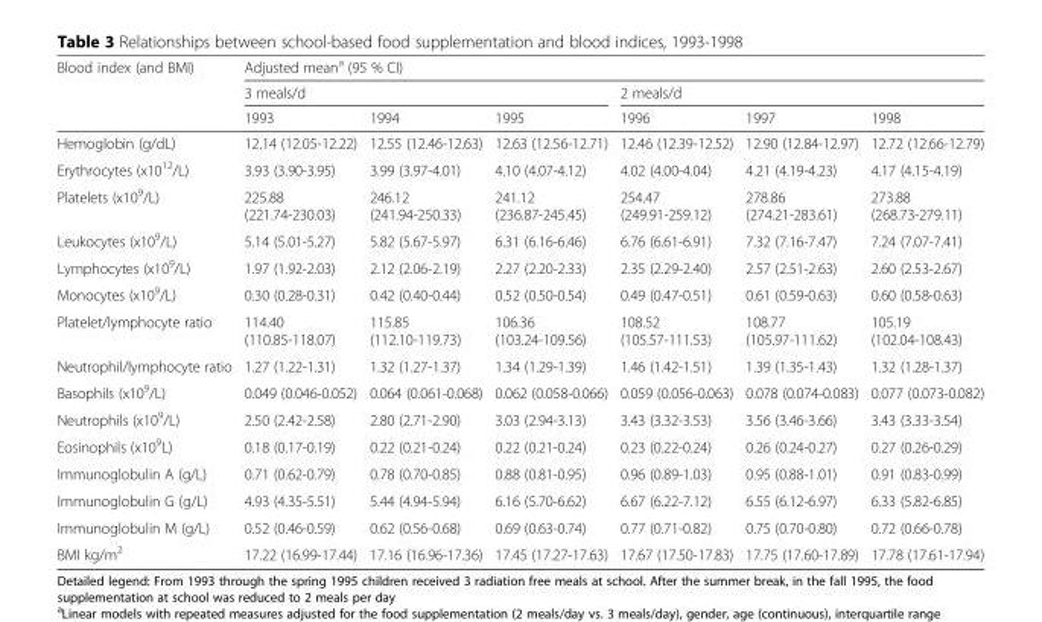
<table><thead><tr><td rowspan="3">Blood index (and BMI)</td><td colspan="6">Adjusted mean<sup>a</sup> (95 % CI)</td></tr><tr><td colspan="3">3 meals/d</td><td colspan="3">2 meals/d</td></tr><tr><td>1993</td><td>1994</td><td>1995</td><td>1996</td><td>1997</td><td>1998</td></tr></thead><tbody><tr><td>Hemoglobin (g/dL)</td><td>12.14 (12.05-12.22)</td><td>12.55 (12.46-12.63)</td><td>12.63 (12.56-12.71)</td><td>12.46 (12.39-12.52)</td><td>12.90 (12.84-12.97)</td><td>12.72 (12.66-12.79)</td></tr><tr><td>Erythrocytes (x10<sup>12</sup>/L)</td><td>3.93 (3.90-3.95)</td><td>3.99 (3.97-4.01)</td><td>4.10 (4.07-4.12)</td><td>4.02 (4.00-4.04)</td><td>4.21 (4.19-4.23)</td><td>4.17 (4.15-4.19)</td></tr><tr><td>Platelets (x10<sup>9</sup>/L)</td><td>225.88 (221.74-230.03)</td><td>246.12 (241.94-250.33)</td><td>241.12 (236.87-245.45)</td><td>254.47 (249.91-259.12)</td><td>278.86 (274.21-283.61)</td><td>273.88 (268.73-279.11)</td></tr><tr><td>Leukocytes (x10<sup>9</sup>/L)</td><td>5.14 (5.01-5.27)</td><td>5.82 (5.67-5.97)</td><td>6.31 (6.16-6.46)</td><td>6.76 (6.61-6.91)</td><td>7.32 (7.16-7.47)</td><td>7.24 (7.07-7.41)</td></tr><tr><td>Lymphocytes (x10<sup>9</sup>/L)</td><td>1.97 (1.92-2.03)</td><td>2.12 (2.06-2.19)</td><td>2.27 (2.20-2.33)</td><td>2.35 (2.29-2.40)</td><td>2.57 (2.51-2.63)</td><td>2.60 (2.53-2.67)</td></tr><tr><td>Monocytes (x10<sup>9</sup>/L)</td><td>0.30 (0.28-0.31)</td><td>0.42 (0.40-0.44)</td><td>0.52 (0.50-0.54)</td><td>0.49 (0.47-0.51)</td><td>0.61 (0.59-0.63)</td><td>0.60 (0.58-0.63)</td></tr><tr><td>Platelet/lymphocyte ratio</td><td>114.40 (110.85-118.07)</td><td>115.85 (112.10-119.73)</td><td>106.36 (103.24-109.56)</td><td>108.52 (105.57-111.53)</td><td>108.77 (105.97-111.62)</td><td>105.19 (102.04-108.43)</td></tr><tr><td>Neutrophil/lymphocyte ratio</td><td>1.27 (1.22-1.31)</td><td>1.32 (1.27-1.37)</td><td>1.34 (1.29-1.39)</td><td>1.46 (1.42-1.51)</td><td>1.39 (1.35-1.43)</td><td>1.32 (1.28-1.37)</td></tr><tr><td>Basophils (x10<sup>9</sup>/L)</td><td>0.049 (0.046-0.052)</td><td>0.064 (0.061-0.068)</td><td>0.062 (0.058-0.066)</td><td>0.059 (0.056-0.063)</td><td>0.078 (0.074-0.083)</td><td>0.077 (0.073-0.082)</td></tr><tr><td>Neutrophils (x10<sup>9</sup>/L)</td><td>2.50 (2.42-2.58)</td><td>2.80 (2.71-2.90)</td><td>3.03 (2.94-3.13)</td><td>3.43 (3.32-3.53)</td><td>3.56 (3.46-3.66)</td><td>3.43 (3.33-3.54)</td></tr><tr><td>Eosinophils (x10<sup>9</sup>L)</td><td>0.18 (0.17-0.19)</td><td>0.22 (0.21-0.24)</td><td>0.22 (0.21-0.24)</td><td>0.23 (0.22-0.24)</td><td>0.26 (0.24-0.27)</td><td>0.27 (0.26-0.29)</td></tr><tr><td>Immunoglobulin A (g/L)</td><td>0.71 (0.62-0.79)</td><td>0.78 (0.70-0.85)</td><td>0.88 (0.81-0.95)</td><td>0.96 (0.89-1.03)</td><td>0.95 (0.88-1.01)</td><td>0.91 (0.83-0.99)</td></tr><tr><td>Immunoglobulin G (g/L)</td><td>4.93 (4.35-5.51)</td><td>5.44 (4.94-5.94)</td><td>6.16 (5.70-6.62)</td><td>6.67 (6.22-7.12)</td><td>6.55 (6.12-6.97)</td><td>6.33 (5.82-6.85)</td></tr><tr><td>Immunoglobulin M (g/L)</td><td>0.52 (0.46-0.59)</td><td>0.62 (0.56-0.68)</td><td>0.69 (0.63-0.74)</td><td>0.77 (0.71-0.82)</td><td>0.75 (0.70-0.80)</td><td>0.72 (0.66-0.78)</td></tr><tr><td>BMI kg/m<sup>2</sup></td><td>17.22 (16.99-17.44)</td><td>17.16 (16.96-17.36)</td><td>17.45 (17.27-17.63)</td><td>17.67 (17.50-17.83)</td><td>17.75 (17.60-17.89)</td><td>17.78 (17.61-17.94)</td></tr></tbody></table>